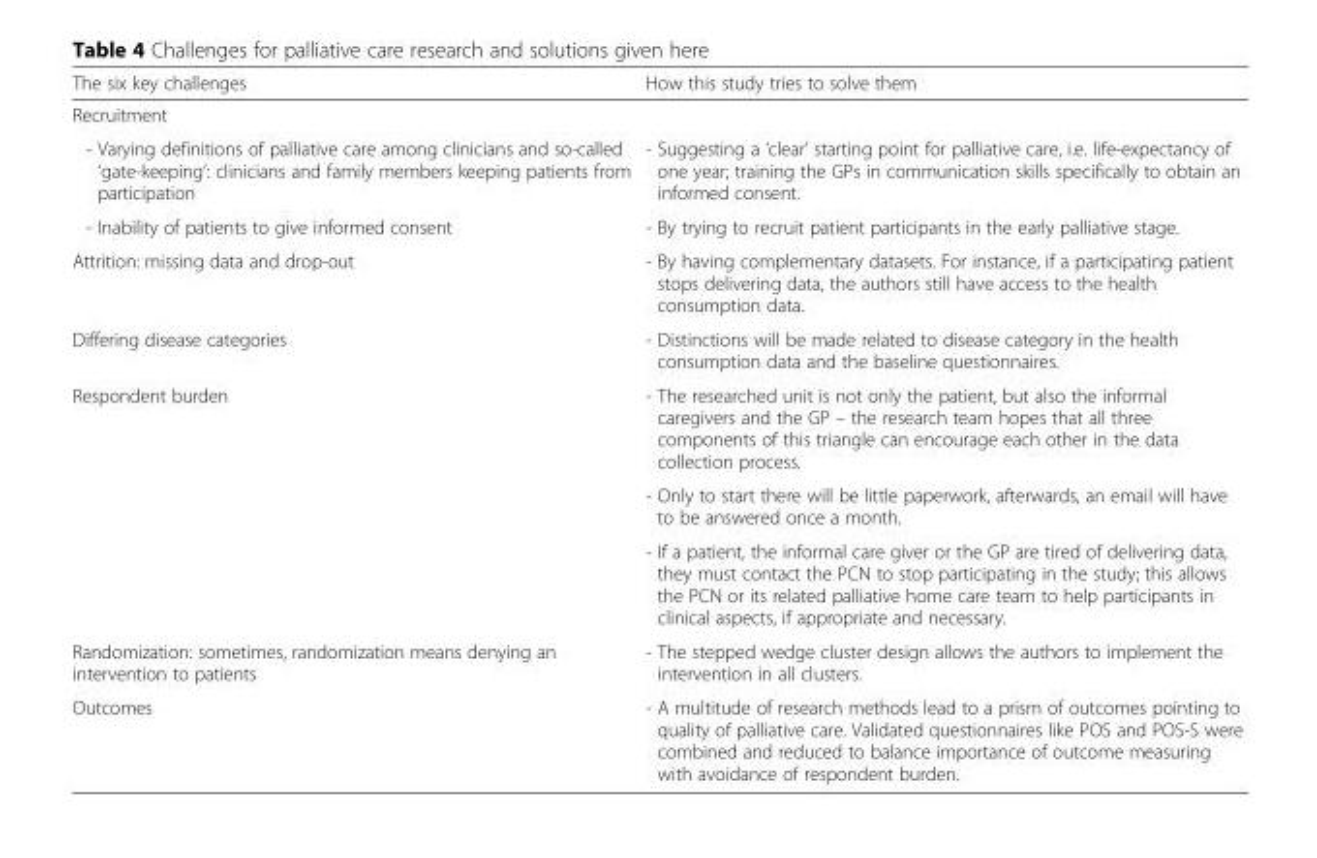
<table><thead><tr><td>The six key challenges</td><td>How this study tries to solve them</td></tr></thead><tbody><tr><td colspan="2">Recruitment</td></tr><tr><td>- Varying definitions of palliative care among clinicians and so-called ‘gate-keeping’: clinicians and family members keeping patients from participation</td><td>- Suggesting a ‘clear’ starting point for palliative care, i.e. life-expectancy of one year; training the GPs in communication skills specifically to obtain an informed consent.</td></tr><tr><td>- Inability of patients to give informed consent</td><td>- By trying to recruit patient participants in the early palliative stage.</td></tr><tr><td>Attrition: missing data and drop-out</td><td>- By having complementary datasets. For instance, if a participating patient stops delivering data, the authors still have access to the health consumption data.</td></tr><tr><td>Differing disease categories</td><td>- Distinctions will be made related to disease category in the health consumption data and the baseline questionnaires.</td></tr><tr><td rowspan="3">Respondent burden</td><td>- The researched unit is not only the patient, but also the informal caregivers and the GP – the research team hopes that all three components of this triangle can encourage each other in the data collection process.</td></tr><tr><td>- Only to start there will be little paperwork, afterwards, an email will have to be answered once a month.</td></tr><tr><td>- If a patient, the informal care giver or the GP are tired of delivering data, they must contact the PCN to stop participating in the study; this allows the PCN or its related palliative home care team to help participants in clinical aspects, if appropriate and necessary.</td></tr><tr><td>Randomization: sometimes, randomization means denying an intervention to patients</td><td>- The stepped wedge cluster design allows the authors to implement the intervention in all clusters.</td></tr><tr><td>Outcomes</td><td>- A multitude of research methods lead to a prism of outcomes pointing to quality of palliative care. Validated questionnaires like POS and POS-S were combined and reduced to balance importance of outcome measuring with avoidance of respondent burden.</td></tr></tbody></table>